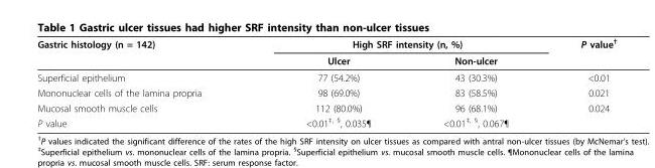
<table><thead><tr><td rowspan="2">Gastric histology (n = 142)</td><td colspan="2">High SRF intensity (n, %)</td><td rowspan="2">P value<sup>†</sup></td></tr><tr><td>Ulcer</td><td>Non-ulcer</td></tr></thead><tbody><tr><td>Superficial epithelium</td><td>77 (54.2%)</td><td>43 (30.3%)</td><td>&lt;0.01</td></tr><tr><td>Mononuclear cells of the lamina propria</td><td>98 (69.0%)</td><td>83 (58.5%)</td><td>0.021</td></tr><tr><td>Mucosal smooth muscle cells</td><td>112 (80.0%)</td><td>96 (68.1%)</td><td>0.024</td></tr><tr><td>P value</td><td>&lt;0.01<sup>‡, §</sup>, 0.035¶</td><td>&lt;0.01<sup>‡, §</sup>, 0.067¶</td><td></td></tr></tbody></table>